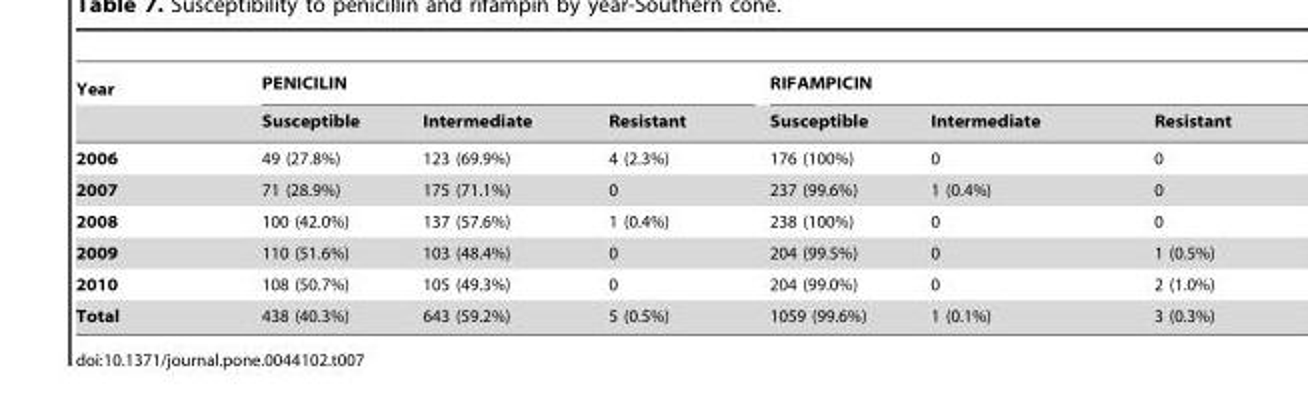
<table><thead><tr><td rowspan="2">Year</td><td colspan="3">PENICILIN</td><td colspan="3">RIFAMPICIN</td></tr><tr><td>Susceptible</td><td>Intermediate</td><td>Resistant</td><td>Susceptible</td><td>Intermediate</td><td>Resistant</td></tr></thead><tbody><tr><td>2006</td><td>49 (27.8%)</td><td>123 (69.9%)</td><td>4 (2.3%)</td><td>176 (100%)</td><td>0</td><td>0</td></tr><tr><td>2007</td><td>71 (28.9%)</td><td>175 (71.1%)</td><td>0</td><td>237 (99.6%)</td><td>1 (0.4%)</td><td>0</td></tr><tr><td>2008</td><td>100 (42.0%)</td><td>137 (57.6%)</td><td>1 (0.4%)</td><td>238 (100%)</td><td>0</td><td>0</td></tr><tr><td>2009</td><td>110 (51.6%)</td><td>103 (48.4%)</td><td>0</td><td>204 (99.5%)</td><td>0</td><td>1 (0.5%)</td></tr><tr><td>2010</td><td>108 (50.7%)</td><td>105 (49.3%)</td><td>0</td><td>204 (99.0%)</td><td>0</td><td>2 (1.0%)</td></tr><tr><td>Total</td><td>438 (40.3%)</td><td>643 (59.2%)</td><td>5 (0.5%)</td><td>1059 (99.6%)</td><td>1 (0.1%)</td><td>3 (0.3%)</td></tr></tbody></table>